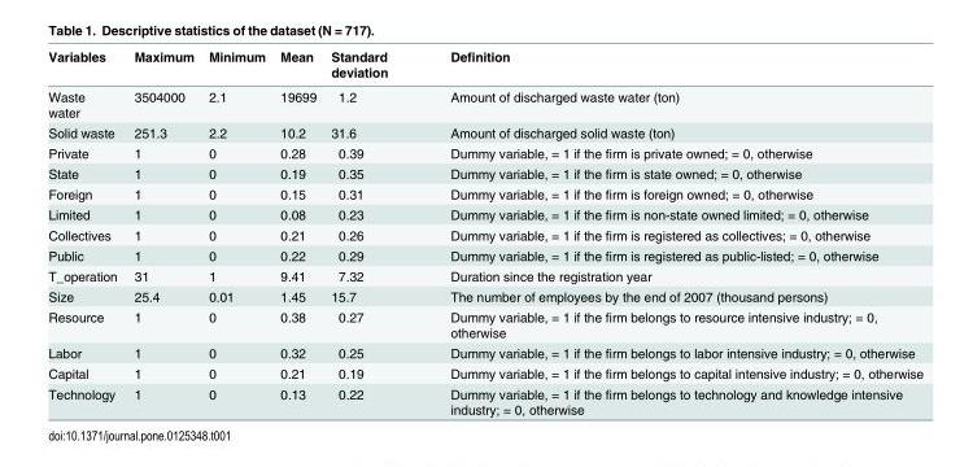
<table><thead><tr><td>Variables</td><td>Maximum</td><td>Minimum</td><td>Mean</td><td>Standard deviation</td><td>Definition</td></tr></thead><tbody><tr><td>Waste water</td><td>3504000</td><td>2.1</td><td>19699</td><td>1.2</td><td>Amount of discharged waste water (ton)</td></tr><tr><td>Solid waste</td><td>251.3</td><td>2.2</td><td>10.2</td><td>31.6</td><td>Amount of discharged solid waste (ton)</td></tr><tr><td>Private</td><td>1</td><td>0</td><td>0.28</td><td>0.39</td><td>Dummy variable, = 1 if the firm is private owned; = 0, otherwise</td></tr><tr><td>State</td><td>1</td><td>0</td><td>0.19</td><td>0.35</td><td>Dummy variable, = 1 if the firm is state owned; = 0, otherwise</td></tr><tr><td>Foreign</td><td>1</td><td>0</td><td>0.15</td><td>0.31</td><td>Dummy variable, = 1 if the firm is foreign owned; = 0, otherwise</td></tr><tr><td>Limited</td><td>1</td><td>0</td><td>0.08</td><td>0.23</td><td>Dummy variable, = 1 if the firm is non-state owned limited; = 0, otherwise</td></tr><tr><td>Collectives</td><td>1</td><td>0</td><td>0.21</td><td>0.26</td><td>Dummy variable, = 1 if the firm is registered as collectives; = 0, otherwise</td></tr><tr><td>Public</td><td>1</td><td>0</td><td>0.22</td><td>0.29</td><td>Dummy variable, = 1 if the firm is registered as public-listed; = 0, otherwise</td></tr><tr><td>T_operation</td><td>31</td><td>1</td><td>9.41</td><td>7.32</td><td>Duration since the registration year</td></tr><tr><td>Size</td><td>25.4</td><td>0.01</td><td>1.45</td><td>15.7</td><td>The number of employees by the end of 2007 (thousand persons)</td></tr><tr><td>Resource</td><td>1</td><td>0</td><td>0.38</td><td>0.27</td><td>Dummy variable, = 1 if the firm belongs to resource intensive industry; = 0, otherwise</td></tr><tr><td>Labor</td><td>1</td><td>0</td><td>0.32</td><td>0.25</td><td>Dummy variable, = 1 if the firm belongs to labor intensive industry; = 0, otherwise</td></tr><tr><td>Capital</td><td>1</td><td>0</td><td>0.21</td><td>0.19</td><td>Dummy variable, = 1 if the firm belongs to capital intensive industry; = 0, otherwise</td></tr><tr><td>Technology</td><td>1</td><td>0</td><td>0.13</td><td>0.22</td><td>Dummy variable, = 1 if the firm belongs to technology and knowledge intensive industry; = 0, otherwise</td></tr></tbody></table>